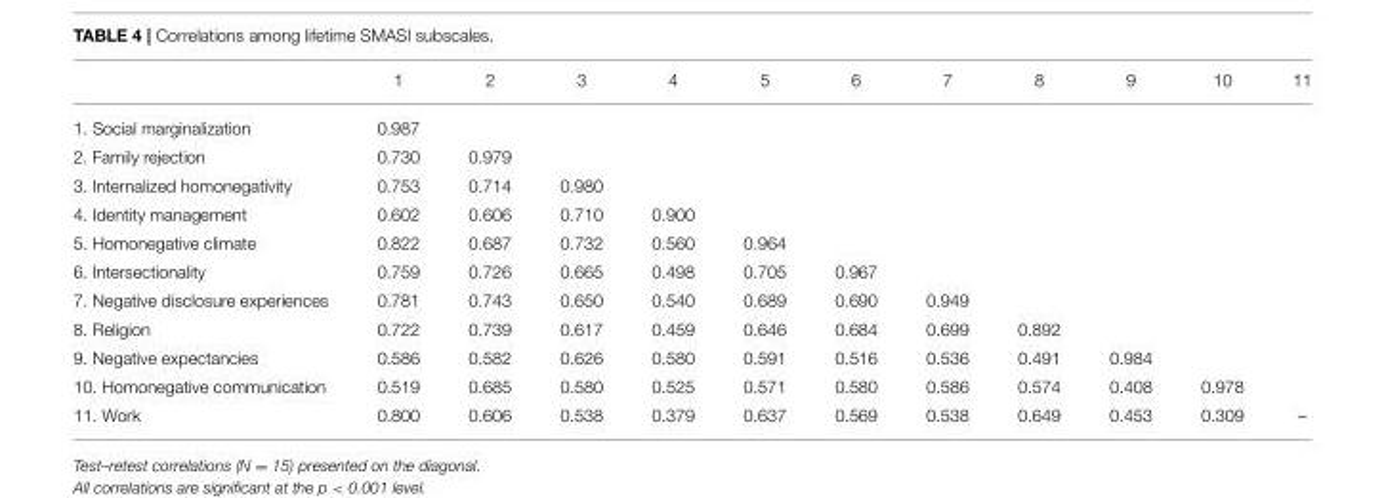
<table><thead><tr><td></td><td>1</td><td>2</td><td>3</td><td>4</td><td>5</td><td>6</td><td>7</td><td>8</td><td>9</td><td>10</td><td>11</td></tr></thead><tbody><tr><td>1. Social marginalization</td><td>0.987</td><td></td><td></td><td></td><td></td><td></td><td></td><td></td><td></td><td></td><td></td></tr><tr><td>2. Family rejection</td><td>0.730</td><td>0.979</td><td></td><td></td><td></td><td></td><td></td><td></td><td></td><td></td><td></td></tr><tr><td>3. Internalized homonegativity</td><td>0.753</td><td>0.714</td><td>0.980</td><td></td><td></td><td></td><td></td><td></td><td></td><td></td><td></td></tr><tr><td>4. Identity management</td><td>0.602</td><td>0.606</td><td>0.710</td><td>0.900</td><td></td><td></td><td></td><td></td><td></td><td></td><td></td></tr><tr><td>5. Homonegative climate</td><td>0.822</td><td>0.687</td><td>0.732</td><td>0.560</td><td>0.964</td><td></td><td></td><td></td><td></td><td></td><td></td></tr><tr><td>6. Intersectionality</td><td>0.759</td><td>0.726</td><td>0.665</td><td>0.498</td><td>0.705</td><td>0.967</td><td></td><td></td><td></td><td></td><td></td></tr><tr><td>7. Negative disclosure experiences</td><td>0.781</td><td>0.743</td><td>0.650</td><td>0.540</td><td>0.689</td><td>0.690</td><td>0.949</td><td></td><td></td><td></td><td></td></tr><tr><td>8. Religion</td><td>0.722</td><td>0.739</td><td>0.617</td><td>0.459</td><td>0.646</td><td>0.684</td><td>0.699</td><td>0.892</td><td></td><td></td><td></td></tr><tr><td>9. Negative expectancies</td><td>0.586</td><td>0.582</td><td>0.626</td><td>0.580</td><td>0.591</td><td>0.516</td><td>0.536</td><td>0.491</td><td>0.984</td><td></td><td></td></tr><tr><td>10. Homonegative communication</td><td>0.519</td><td>0.685</td><td>0.580</td><td>0.525</td><td>0.571</td><td>0.580</td><td>0.586</td><td>0.574</td><td>0.408</td><td>0.978</td><td></td></tr><tr><td>11. Work</td><td>0.800</td><td>0.606</td><td>0.538</td><td>0.379</td><td>0.637</td><td>0.569</td><td>0.538</td><td>0.649</td><td>0.453</td><td>0.309</td><td>–</td></tr></tbody></table>